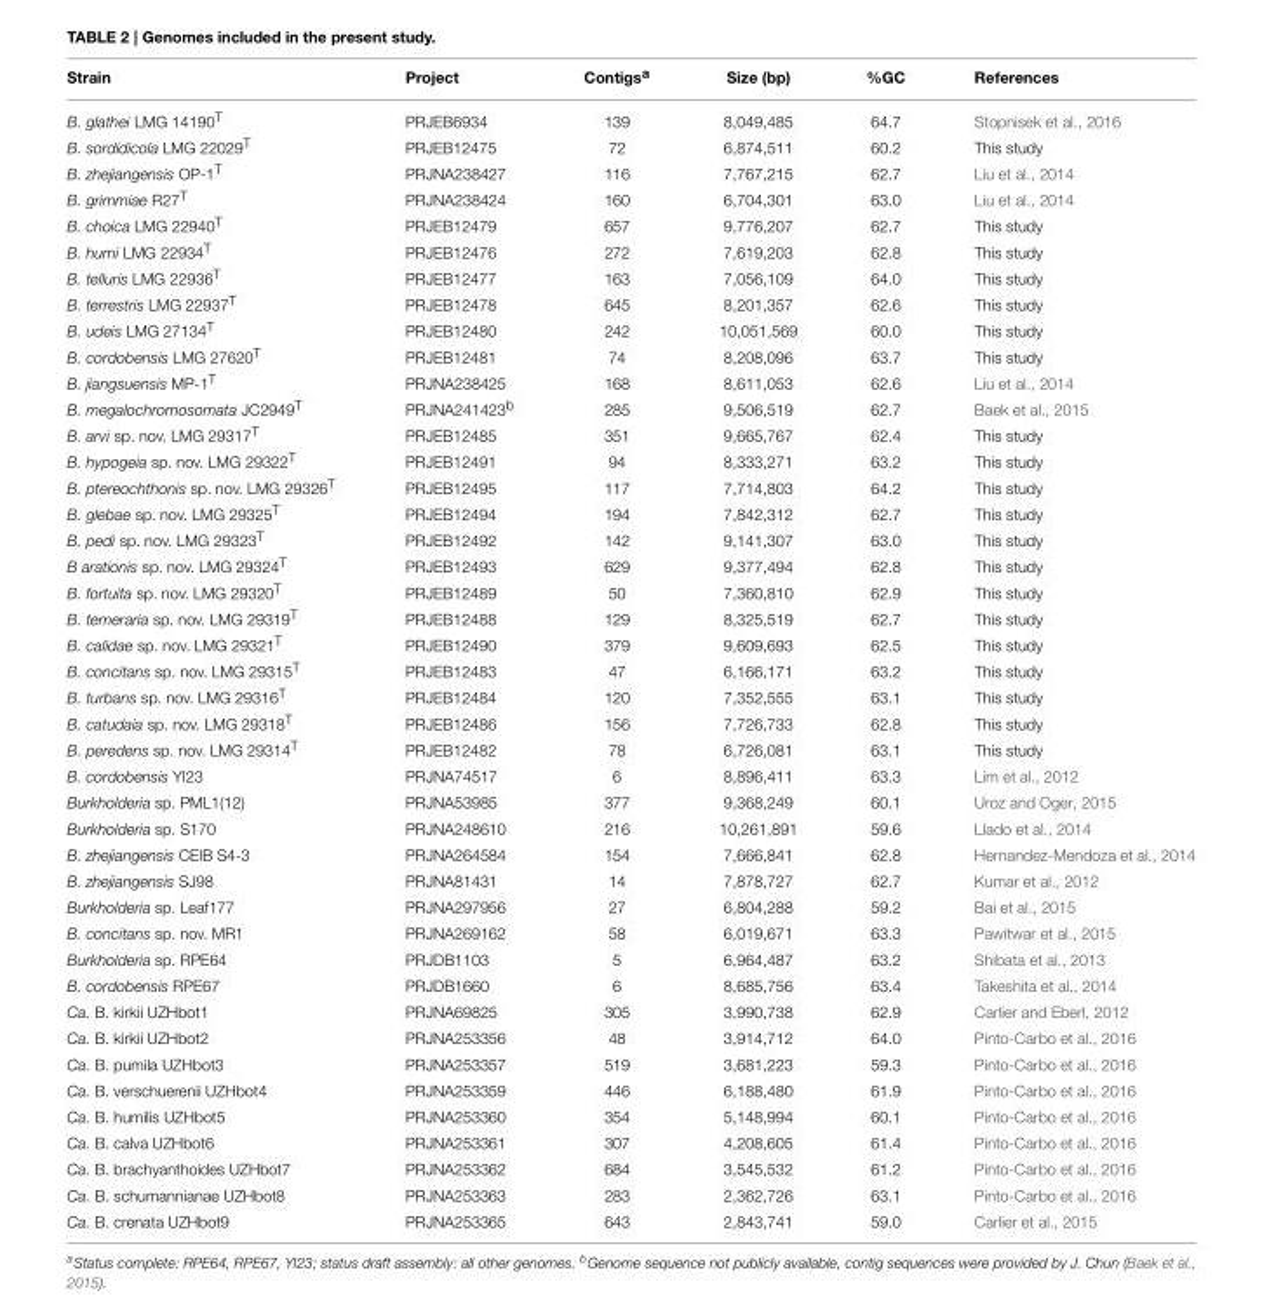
<table><thead><tr><td>Strain</td><td>Project</td><td>Contigs<sup>a</sup></td><td>Size (bp)</td><td>%GC</td><td>References</td></tr></thead><tbody><tr><td>B. glathei LMG 14190<sup>T</sup></td><td>PRJEB6934</td><td>139</td><td>8,049,485</td><td>64.7</td><td>Stopnisek et al., 2016</td></tr><tr><td>B. sordidicola LMG 22029<sup>T</sup></td><td>PRJEB12475</td><td>72</td><td>6,874,511</td><td>60.2</td><td>This study</td></tr><tr><td>B. zhejiangensis OP-1<sup>T</sup></td><td>PRJNA238427</td><td>116</td><td>7,767,215</td><td>62.7</td><td>Liu et al., 2014</td></tr><tr><td>B. grimmiae R27<sup>T</sup></td><td>PRJNA238424</td><td>160</td><td>6,704,301</td><td>63.0</td><td>Liu et al., 2014</td></tr><tr><td>B. choica LMG 22940<sup>T</sup></td><td>PRJEB12479</td><td>657</td><td>9,776,207</td><td>62.7</td><td>This study</td></tr><tr><td>B. humi LMG 22934<sup>T</sup></td><td>PRJEB12476</td><td>272</td><td>7,619,203</td><td>62.8</td><td>This study</td></tr><tr><td>B. telluris LMG 22936<sup>T</sup></td><td>PRJEB12477</td><td>163</td><td>7,056,109</td><td>64.0</td><td>This study</td></tr><tr><td>B. terrestris LMG 22937<sup>T</sup></td><td>PRJEB12478</td><td>645</td><td>8,201,357</td><td>62.6</td><td>This study</td></tr><tr><td>B. udeis LMG 27134<sup>T</sup></td><td>PRJEB12480</td><td>242</td><td>10,051,569</td><td>60.0</td><td>This study</td></tr><tr><td>B. cordobensis LMG 27620<sup>T</sup></td><td>PRJEB12481</td><td>74</td><td>8,208,096</td><td>63.7</td><td>This study</td></tr><tr><td>B. jiangsuensis MP-1<sup>T</sup></td><td>PRJNA238425</td><td>168</td><td>8,611,053</td><td>62.6</td><td>Liu et al., 2014</td></tr><tr><td>B. megalochromosomata JC2949<sup>T</sup></td><td>PRJNA241423<sup>b</sup></td><td>285</td><td>9,506,519</td><td>62.7</td><td>Baek et al., 2015</td></tr><tr><td>B. arvi sp. nov. LMG 29317<sup>T</sup></td><td>PRJEB12485</td><td>351</td><td>9,665,767</td><td>62.4</td><td>This study</td></tr><tr><td>B. hypogeia sp. nov. LMG 29322<sup>T</sup></td><td>PRJEB12491</td><td>94</td><td>8,333,271</td><td>63.2</td><td>This study</td></tr><tr><td>B. ptereochthonis sp. nov. LMG 29326<sup>T</sup></td><td>PRJEB12495</td><td>117</td><td>7,714,803</td><td>64.2</td><td>This study</td></tr><tr><td>B. glebae sp. nov. LMG 29325<sup>T</sup></td><td>PRJEB12494</td><td>194</td><td>7,842,312</td><td>62.7</td><td>This study</td></tr><tr><td>B. pedi sp. nov. LMG 29323<sup>T</sup></td><td>PRJEB12492</td><td>142</td><td>9,141,307</td><td>63.0</td><td>This study</td></tr><tr><td>B arationis sp. nov. LMG 29324<sup>T</sup></td><td>PRJEB12493</td><td>629</td><td>9,377,494</td><td>62.8</td><td>This study</td></tr><tr><td>B. fortuita sp. nov. LMG 29320<sup>T</sup></td><td>PRJEB12489</td><td>50</td><td>7,360,810</td><td>62.9</td><td>This study</td></tr><tr><td>B. temeraria sp. nov. LMG 29319<sup>T</sup></td><td>PRJEB12488</td><td>129</td><td>8,325,519</td><td>62.7</td><td>This study</td></tr><tr><td>B. calidae sp. nov. LMG 29321<sup>T</sup></td><td>PRJEB12490</td><td>379</td><td>9,609,693</td><td>62.5</td><td>This study</td></tr><tr><td>B. concitans sp. nov. LMG 29315<sup>T</sup></td><td>PRJEB12483</td><td>47</td><td>6,166,171</td><td>63.2</td><td>This study</td></tr><tr><td>B. turbans sp. nov. LMG 29316<sup>T</sup></td><td>PRJEB12484</td><td>120</td><td>7,352,555</td><td>63.1</td><td>This study</td></tr><tr><td>B. catudaia sp. nov. LMG 29318<sup>T</sup></td><td>PRJEB12486</td><td>156</td><td>7,726,733</td><td>62.8</td><td>This study</td></tr><tr><td>B. peredens sp. nov. LMG 29314<sup>T</sup></td><td>PRJEB12482</td><td>78</td><td>6,726,081</td><td>63.1</td><td>This study</td></tr><tr><td>B. cordobensis YI23</td><td>PRJNA74517</td><td>6</td><td>8,896,411</td><td>63.3</td><td>Lim et al., 2012</td></tr><tr><td>Burkholderia sp. PML1(12)</td><td>PRJNA53985</td><td>377</td><td>9,368,249</td><td>60.1</td><td>Uroz and Oger, 2015</td></tr><tr><td>Burkholderia sp. S170</td><td>PRJNA248610</td><td>216</td><td>10,261,891</td><td>59.6</td><td>Llado et al., 2014</td></tr><tr><td>B. zhejiangensis CEIB S4-3</td><td>PRJNA264584</td><td>154</td><td>7,666,841</td><td>62.8</td><td>Hernandez-Mendoza et al., 2014</td></tr><tr><td>B. zhejiangensis SJ98</td><td>PRJNA81431</td><td>14</td><td>7,878,727</td><td>62.7</td><td>Kumar et al., 2012</td></tr><tr><td>Burkholderia sp. Leaf177</td><td>PRJNA297956</td><td>27</td><td>6,804,288</td><td>59.2</td><td>Bai et al., 2015</td></tr><tr><td>B. concitans sp. nov. MR1</td><td>PRJNA269162</td><td>58</td><td>6,019,671</td><td>63.3</td><td>Pawitwar et al., 2015</td></tr><tr><td>Burkholderia sp. RPE64</td><td>PRJDB1103</td><td>5</td><td>6,964,487</td><td>63.2</td><td>Shibata et al., 2013</td></tr><tr><td>B. cordobensis RPE67</td><td>PRJDB1660</td><td>6</td><td>8,685,756</td><td>63.4</td><td>Takeshita et al., 2014</td></tr><tr><td>Ca. B. kirkii UZHbot1</td><td>PRJNA69825</td><td>305</td><td>3,990,738</td><td>62.9</td><td>Carlier and Eberl, 2012</td></tr><tr><td>Ca. B. kirkii UZHbot2</td><td>PRJNA253356</td><td>48</td><td>3,914,712</td><td>64.0</td><td>Pinto-Carbo et al., 2016</td></tr><tr><td>Ca. B. pumila UZHbot3</td><td>PRJNA253357</td><td>519</td><td>3,681,223</td><td>59.3</td><td>Pinto-Carbo et al., 2016</td></tr><tr><td>Ca. B. verschuerenii UZHbot4</td><td>PRJNA253359</td><td>446</td><td>6,188,480</td><td>61.9</td><td>Pinto-Carbo et al., 2016</td></tr><tr><td>Ca. B. humilis UZHbot5</td><td>PRJNA253360</td><td>354</td><td>5,148,994</td><td>60.1</td><td>Pinto-Carbo et al., 2016</td></tr><tr><td>Ca. B. calva UZHbot6</td><td>PRJNA253361</td><td>307</td><td>4,208,605</td><td>61.4</td><td>Pinto-Carbo et al., 2016</td></tr><tr><td>Ca. B. brachyanthoides UZHbot7</td><td>PRJNA253362</td><td>684</td><td>3,545,532</td><td>61.2</td><td>Pinto-Carbo et al., 2016</td></tr><tr><td>Ca. B. schumannianae UZHbot8</td><td>PRJNA253363</td><td>283</td><td>2,362,726</td><td>63.1</td><td>Pinto-Carbo et al., 2016</td></tr><tr><td>Ca. B. crenata UZHbot9</td><td>PRJNA253365</td><td>643</td><td>2,843,741</td><td>59.0</td><td>Carlier et al., 2015</td></tr></tbody></table>